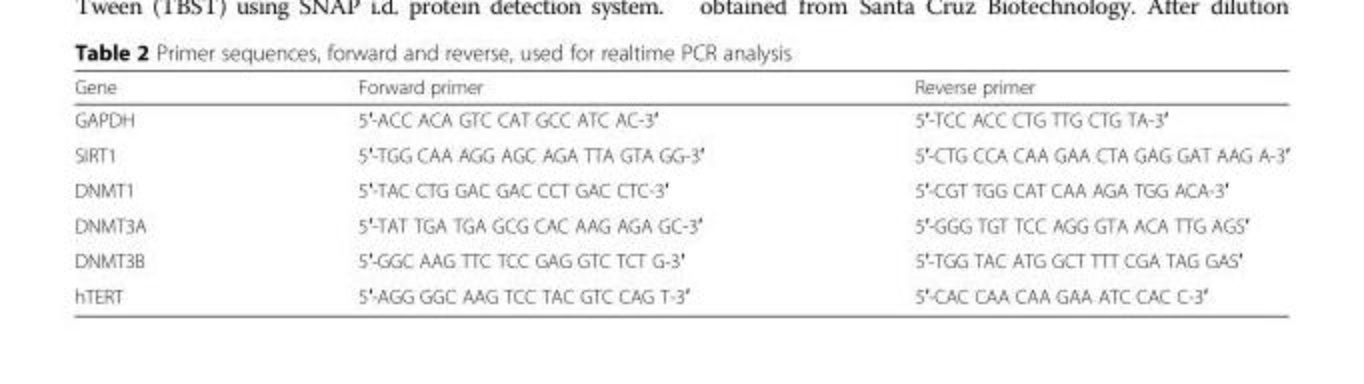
<table><thead><tr><td>Gene</td><td>Forward primer</td><td>Reverse primer</td></tr></thead><tbody><tr><td>GAPDH</td><td>5′-ACC ACA GTC CAT GCC ATC AC-3′</td><td>5′-TCC ACC CTG TTG CTG TA-3′</td></tr><tr><td>SIRT1</td><td>5′-TGG CAA AGG AGC AGA TTA GTA GG-3′</td><td>5′-CTG CCA CAA GAA CTA GAG GAT AAG A-3′</td></tr><tr><td>DNMT1</td><td>5′-TAC CTG GAC GAC CCT GAC CTC-3′</td><td>5′-CGT TGG CAT CAA AGA TGG ACA-3′</td></tr><tr><td>DNMT3A</td><td>5′-TAT TGA TGA GCG CAC AAG AGA GC-3′</td><td>5′-GGG TGT TCC AGG GTA ACA TTG AGS′</td></tr><tr><td>DNMT3B</td><td>5′-GGC AAG TTC TCC GAG GTC TCT G-3′</td><td>5′-TGG TAC ATG GCT TTT CGA TAG GAS′</td></tr><tr><td>hTERT</td><td>5′-AGG GGC AAG TCC TAC GTC CAG T-3′</td><td>5′-CAC CAA CAA GAA ATC CAC C-3′</td></tr></tbody></table>